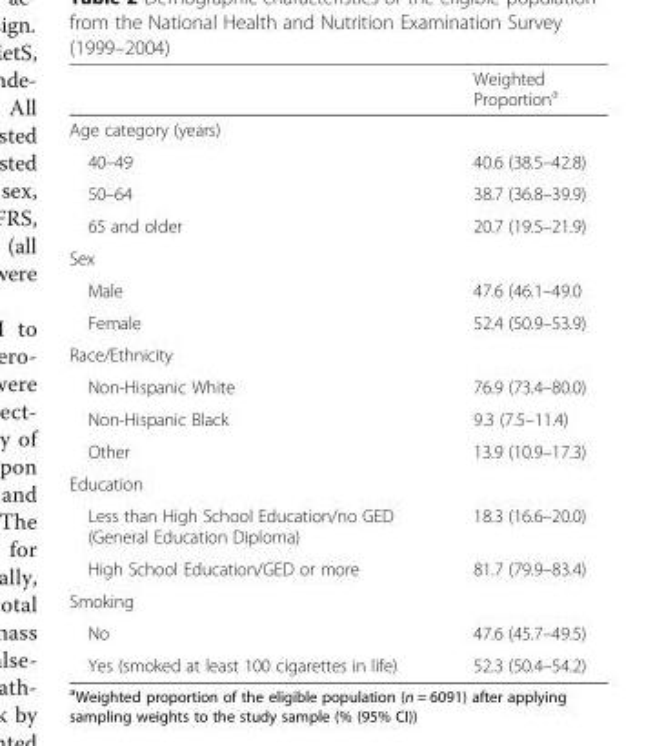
<table><thead><tr><td></td><td>Weighted Proportion<sup>a</sup></td></tr></thead><tbody><tr><td colspan="2">Age category (years)</td></tr><tr><td>40–49</td><td>40.6 (38.5–42.8)</td></tr><tr><td>50–64</td><td>38.7 (36.8–39.9)</td></tr><tr><td>65 and older</td><td>20.7 (19.5–21.9)</td></tr><tr><td colspan="2">Sex</td></tr><tr><td>Male</td><td>47.6 (46.1–49.0</td></tr><tr><td>Female</td><td>52.4 (50.9–53.9)</td></tr><tr><td colspan="2">Race/Ethnicity</td></tr><tr><td>Non-Hispanic White</td><td>76.9 (73.4–80.0)</td></tr><tr><td>Non-Hispanic Black</td><td>9.3 (7.5–11.4)</td></tr><tr><td>Other</td><td>13.9 (10.9–17.3)</td></tr><tr><td colspan="2">Education</td></tr><tr><td>Less than High School Education/no GED (General Education Diploma)</td><td>18.3 (16.6–20.0)</td></tr><tr><td>High School Education/GED or more</td><td>81.7 (79.9–83.4)</td></tr><tr><td colspan="2">Smoking</td></tr><tr><td>No</td><td>47.6 (45.7–49.5)</td></tr><tr><td>Yes (smoked at least 100 cigarettes in life)</td><td>52.3 (50.4–54.2)</td></tr></tbody></table>